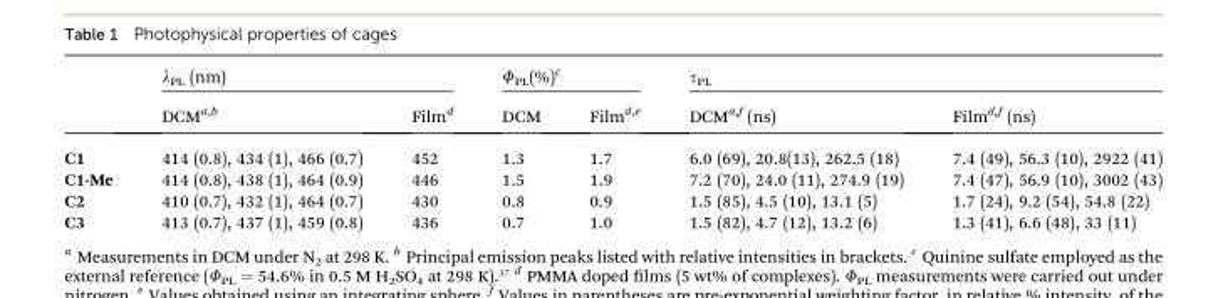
<table><thead><tr><td rowspan="2"></td><td colspan="2">λ<sub>PL</sub> (nm)</td><td colspan="2">Φ<sub>PL</sub>(%)<sup>c</sup></td><td colspan="2">τ<sub>PL</sub></td></tr><tr><td>DCM<sup>a,b</sup></td><td>Film<sup>d</sup></td><td>DCM</td><td>Film<sup>d,e</sup></td><td>DCM<sup>a,f</sup> (ns)</td><td>Film<sup>d,f</sup> (ns)</td></tr></thead><tbody><tr><td>C1</td><td>414 (0.8), 434 (1), 466 (0.7)</td><td>452</td><td>1.3</td><td>1.7</td><td>6.0 (69), 20.8(13), 262.5 (18)</td><td>7.4 (49), 56.3 (10), 2922 (41)</td></tr><tr><td>C1-Me</td><td>414 (0.8), 438 (1), 464 (0.9)</td><td>446</td><td>1.5</td><td>1.9</td><td>7.2 (70), 24.0 (11), 274.9 (19)</td><td>7.4 (47), 56.9 (10), 3002 (43)</td></tr><tr><td>C2</td><td>410 (0.7), 432 (1), 464 (0.7)</td><td>430</td><td>0.8</td><td>0.9</td><td>1.5 (85), 4.5 (10), 13.1 (5)</td><td>1.7 (24), 9.2 (54), 54.8 (22)</td></tr><tr><td>C3</td><td>413 (0.7), 437 (1), 459 (0.8)</td><td>436</td><td>0.7</td><td>1.0</td><td>1.5 (82), 4.7 (12), 13.2 (6)</td><td>1.3 (41), 6.6 (48), 33 (11)</td></tr></tbody></table>